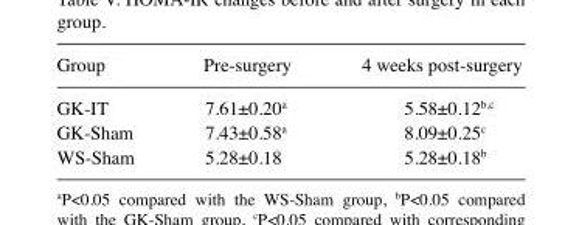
<table><thead><tr><td>Group</td><td>Pre-surgery</td><td>4 weeks post-surgery</td></tr></thead><tbody><tr><td>GK-IT</td><td>7.61±0.20<sup>a</sup></td><td>5.58±0.12<sup>b,c</sup></td></tr><tr><td>GK-Sham</td><td>7.43±0.58<sup>a</sup></td><td>8.09±0.25<sup>c</sup></td></tr><tr><td>WS-Sham</td><td>5.28±0.18</td><td>5.28±0.18<sup>b</sup></td></tr></tbody></table>